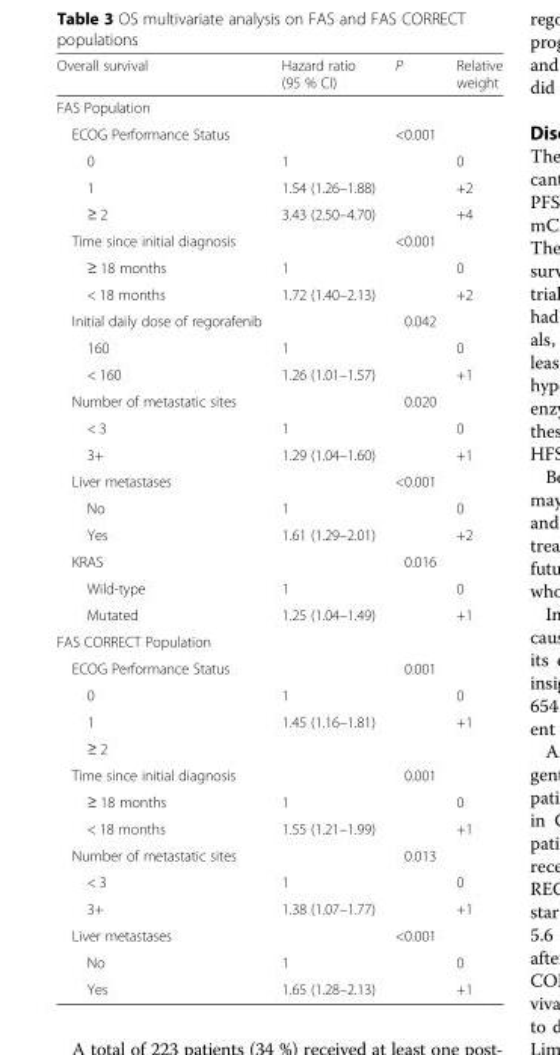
<table><thead><tr><td>Overall survival</td><td>Hazard ratio (95 % CI)</td><td>P</td><td>Relative weight</td></tr></thead><tbody><tr><td colspan="4">FAS Population</td></tr><tr><td>ECOG Performance Status</td><td></td><td>&lt;0.001</td><td></td></tr><tr><td>0</td><td>1</td><td></td><td>0</td></tr><tr><td>1</td><td>1.54 (1.26–1.88)</td><td></td><td>+2</td></tr><tr><td>≥ 2</td><td>3.43 (2.50–4.70)</td><td></td><td>+4</td></tr><tr><td>Time since initial diagnosis</td><td></td><td>&lt;0.001</td><td></td></tr><tr><td>≥ 18 months</td><td>1</td><td></td><td>0</td></tr><tr><td>&lt; 18 months</td><td>1.72 (1.40–2.13)</td><td></td><td>+2</td></tr><tr><td>Initial daily dose of regorafenib</td><td></td><td>0.042</td><td></td></tr><tr><td>160</td><td>1</td><td></td><td>0</td></tr><tr><td>&lt; 160</td><td>1.26 (1.01–1.57)</td><td></td><td>+1</td></tr><tr><td>Number of metastatic sites</td><td></td><td>0.020</td><td></td></tr><tr><td>&lt; 3</td><td>1</td><td></td><td>0</td></tr><tr><td>3+</td><td>1.29 (1.04–1.60)</td><td></td><td>+1</td></tr><tr><td>Liver metastases</td><td></td><td>&lt;0.001</td><td></td></tr><tr><td>No</td><td>1</td><td></td><td>0</td></tr><tr><td>Yes</td><td>1.61 (1.29–2.01)</td><td></td><td>+2</td></tr><tr><td>KRAS</td><td></td><td>0.016</td><td></td></tr><tr><td>Wild-type</td><td>1</td><td></td><td>0</td></tr><tr><td>Mutated</td><td>1.25 (1.04–1.49)</td><td></td><td>+1</td></tr><tr><td colspan="4">FAS CORRECT Population</td></tr><tr><td>ECOG Performance Status</td><td></td><td>0.001</td><td></td></tr><tr><td>0</td><td>1</td><td></td><td>0</td></tr><tr><td>1</td><td>1.45 (1.16–1.81)</td><td></td><td>+1</td></tr><tr><td colspan="4">≥ 2</td></tr><tr><td>Time since initial diagnosis</td><td></td><td>0.001</td><td></td></tr><tr><td>≥ 18 months</td><td>1</td><td></td><td>0</td></tr><tr><td>&lt; 18 months</td><td>1.55 (1.21–1.99)</td><td></td><td>+1</td></tr><tr><td>Number of metastatic sites</td><td></td><td>0.013</td><td></td></tr><tr><td>&lt; 3</td><td>1</td><td></td><td>0</td></tr><tr><td>3+</td><td>1.38 (1.07–1.77)</td><td></td><td>+1</td></tr><tr><td>Liver metastases</td><td></td><td>&lt;0.001</td><td></td></tr><tr><td>No</td><td>1</td><td></td><td>0</td></tr><tr><td>Yes</td><td>1.65 (1.28–2.13)</td><td></td><td>+1</td></tr></tbody></table>